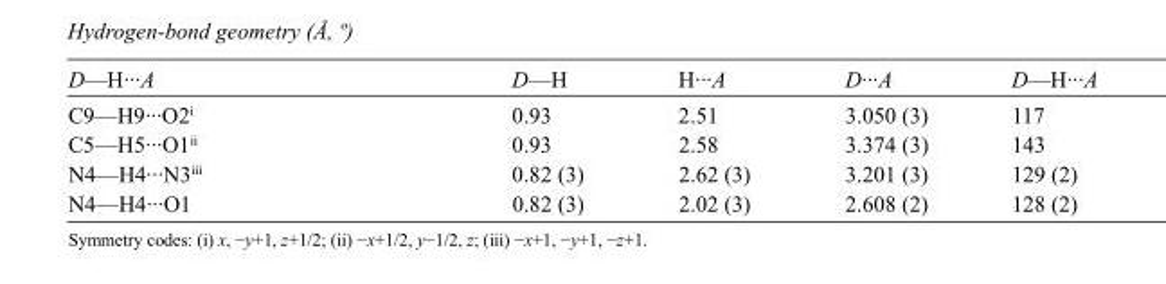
<table><tbody><tr><td>D—H···A</td><td>D—H</td><td>H···A</td><td>D···A</td><td>D—H···A</td></tr><tr><td>C9—H9···O2<sup>i</sup></td><td>0.93</td><td>2.51</td><td>3.050 (3)</td><td>117</td></tr><tr><td>C5—H5···O1<sup>ii</sup></td><td>0.93</td><td>2.58</td><td>3.374 (3)</td><td>143</td></tr><tr><td>N4—H4···N3<sup>iii</sup></td><td>0.82 (3)</td><td>2.62 (3)</td><td>3.201 (3)</td><td>129 (2)</td></tr><tr><td>N4—H4···O1</td><td>0.82 (3)</td><td>2.02 (3)</td><td>2.608 (2)</td><td>128 (2)</td></tr></tbody></table>